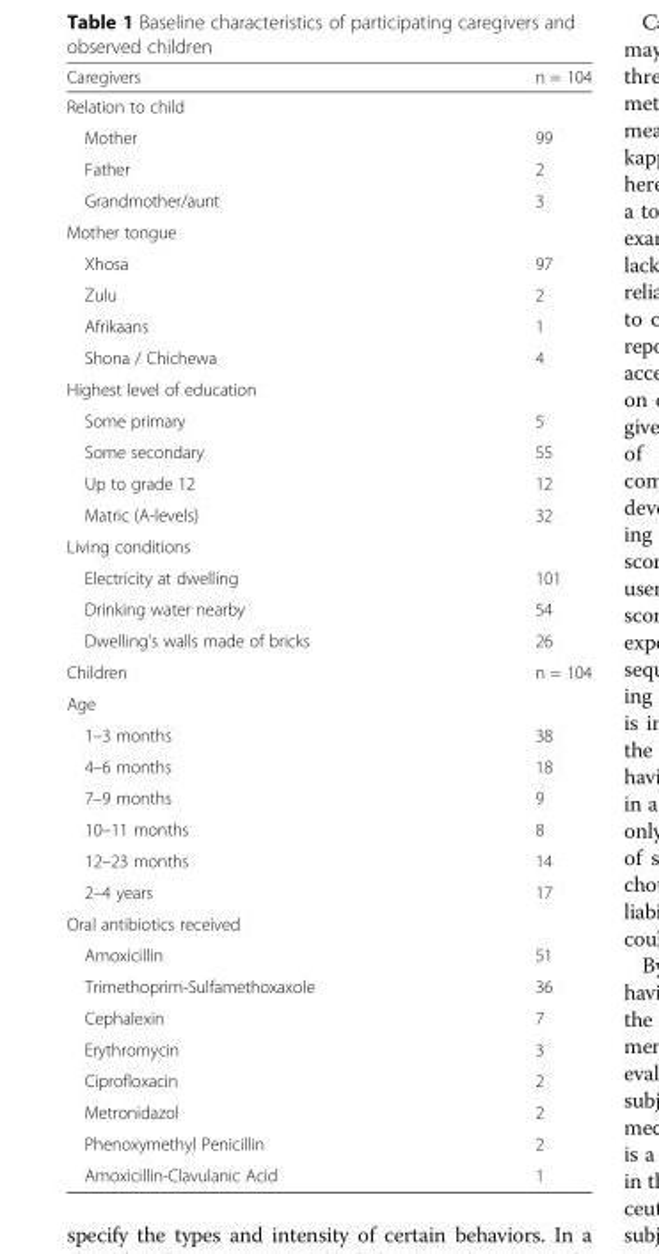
<table><thead><tr><td>Caregivers</td><td>n = 104</td></tr></thead><tbody><tr><td colspan="2">Relation to child</td></tr><tr><td>Mother</td><td>99</td></tr><tr><td>Father</td><td>2</td></tr><tr><td>Grandmother/aunt</td><td>3</td></tr><tr><td colspan="2">Mother tongue</td></tr><tr><td>Xhosa</td><td>97</td></tr><tr><td>Zulu</td><td>2</td></tr><tr><td>Afrikaans</td><td>1</td></tr><tr><td>Shona / Chichewa</td><td>4</td></tr><tr><td colspan="2">Highest level of education</td></tr><tr><td>Some primary</td><td>5</td></tr><tr><td>Some secondary</td><td>55</td></tr><tr><td>Up to grade 12</td><td>12</td></tr><tr><td>Matric (A-levels)</td><td>32</td></tr><tr><td colspan="2">Living conditions</td></tr><tr><td>Electricity at dwelling</td><td>101</td></tr><tr><td>Drinking water nearby</td><td>54</td></tr><tr><td>Dwelling’s walls made of bricks</td><td>26</td></tr><tr><td>Children</td><td>n = 104</td></tr><tr><td colspan="2">Age</td></tr><tr><td>1–3 months</td><td>38</td></tr><tr><td>4–6 months</td><td>18</td></tr><tr><td>7–9 months</td><td>9</td></tr><tr><td>10–11 months</td><td>8</td></tr><tr><td>12–23 months</td><td>14</td></tr><tr><td>2–4 years</td><td>17</td></tr><tr><td colspan="2">Oral antibiotics received</td></tr><tr><td>Amoxicillin</td><td>51</td></tr><tr><td>Trimethoprim-Sulfamethoxaxole</td><td>36</td></tr><tr><td>Cephalexin</td><td>7</td></tr><tr><td>Erythromycin</td><td>3</td></tr><tr><td>Ciprofloxacin</td><td>2</td></tr><tr><td>Metronidazol</td><td>2</td></tr><tr><td>Phenoxymethyl Penicillin</td><td>2</td></tr><tr><td>Amoxicillin-Clavulanic Acid</td><td>1</td></tr></tbody></table>